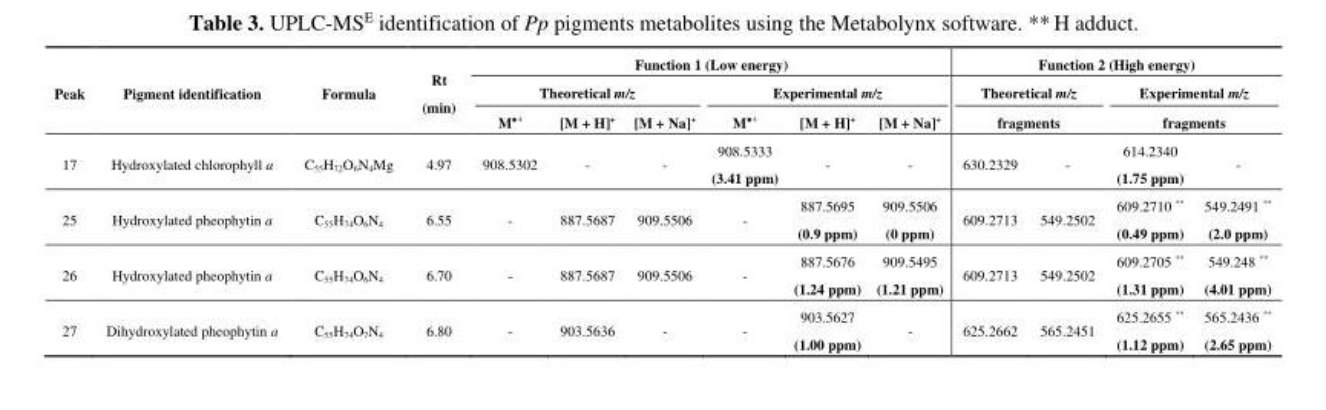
<table><thead><tr><td rowspan="4">Peak 17</td><td rowspan="4">Pigment identification Hydroxylated chlorophyll a</td><td rowspan="4">Formula C<sub>55</sub>H<sub>72</sub>O<sub>6</sub>N<sub>4</sub>Mg</td><td rowspan="4">Rt (min) 4.97</td><td colspan="6">Function 1 (Low energy)</td><td colspan="4">Function 2 (High energy)</td></tr><tr><td colspan="3">Theoretical m/z</td><td colspan="3">Experimental m/z</td><td rowspan="2" colspan="2">Theoretical m/z fragments</td><td rowspan="2" colspan="2">Experimental m/z fragments</td></tr><tr><td rowspan="2">M<sup>●+</sup> 908.5302</td><td rowspan="2">[M + H]<sup>+</sup> -</td><td rowspan="2">[M + Na]<sup>+</sup> -</td><td rowspan="2">M<sup>●+</sup> 908.5333 (3.41 ppm)</td><td rowspan="2">[M + H]<sup>+</sup> -</td><td rowspan="2">[M + Na]<sup>+</sup> -</td></tr><tr><td>630.2329</td><td>-</td><td>614.2340 (1.75 ppm)</td><td>-</td></tr></thead><tbody><tr><td>25</td><td>Hydroxylated pheophytin a</td><td>C<sub>55</sub>H<sub>74</sub>O<sub>6</sub>N<sub>4</sub></td><td>6.55</td><td>-</td><td>887.5687</td><td>909.5506</td><td>-</td><td>887.5695 (0.9 ppm)</td><td>909.5506 (0 ppm)</td><td>609.2713</td><td>549.2502</td><td>609.2710 ** (0.49 ppm)</td><td>549.2491 ** (2.0 ppm)</td></tr><tr><td>26</td><td>Hydroxylated pheophytin a</td><td>C<sub>55</sub>H<sub>74</sub>O<sub>6</sub>N<sub>4</sub></td><td>6.70</td><td>-</td><td>887.5687</td><td>909.5506</td><td>-</td><td>887.5676 (1.24 ppm)</td><td>909.5495 (1.21 ppm)</td><td>609.2713</td><td>549.2502</td><td>609.2705 ** (1.31 ppm)</td><td>549.248 ** (4.01 ppm)</td></tr><tr><td>27</td><td>Dihydroxylated pheophytin a</td><td>C<sub>55</sub>H<sub>74</sub>O<sub>7</sub>N<sub>4</sub></td><td>6.80</td><td>-</td><td>903.5636</td><td>-</td><td>-</td><td>903.5627 (1.00 ppm)</td><td>-</td><td>625.2662</td><td>565.2451</td><td>625.2655 ** (1.12 ppm)</td><td>565.2436 ** (2.65 ppm)</td></tr></tbody></table>